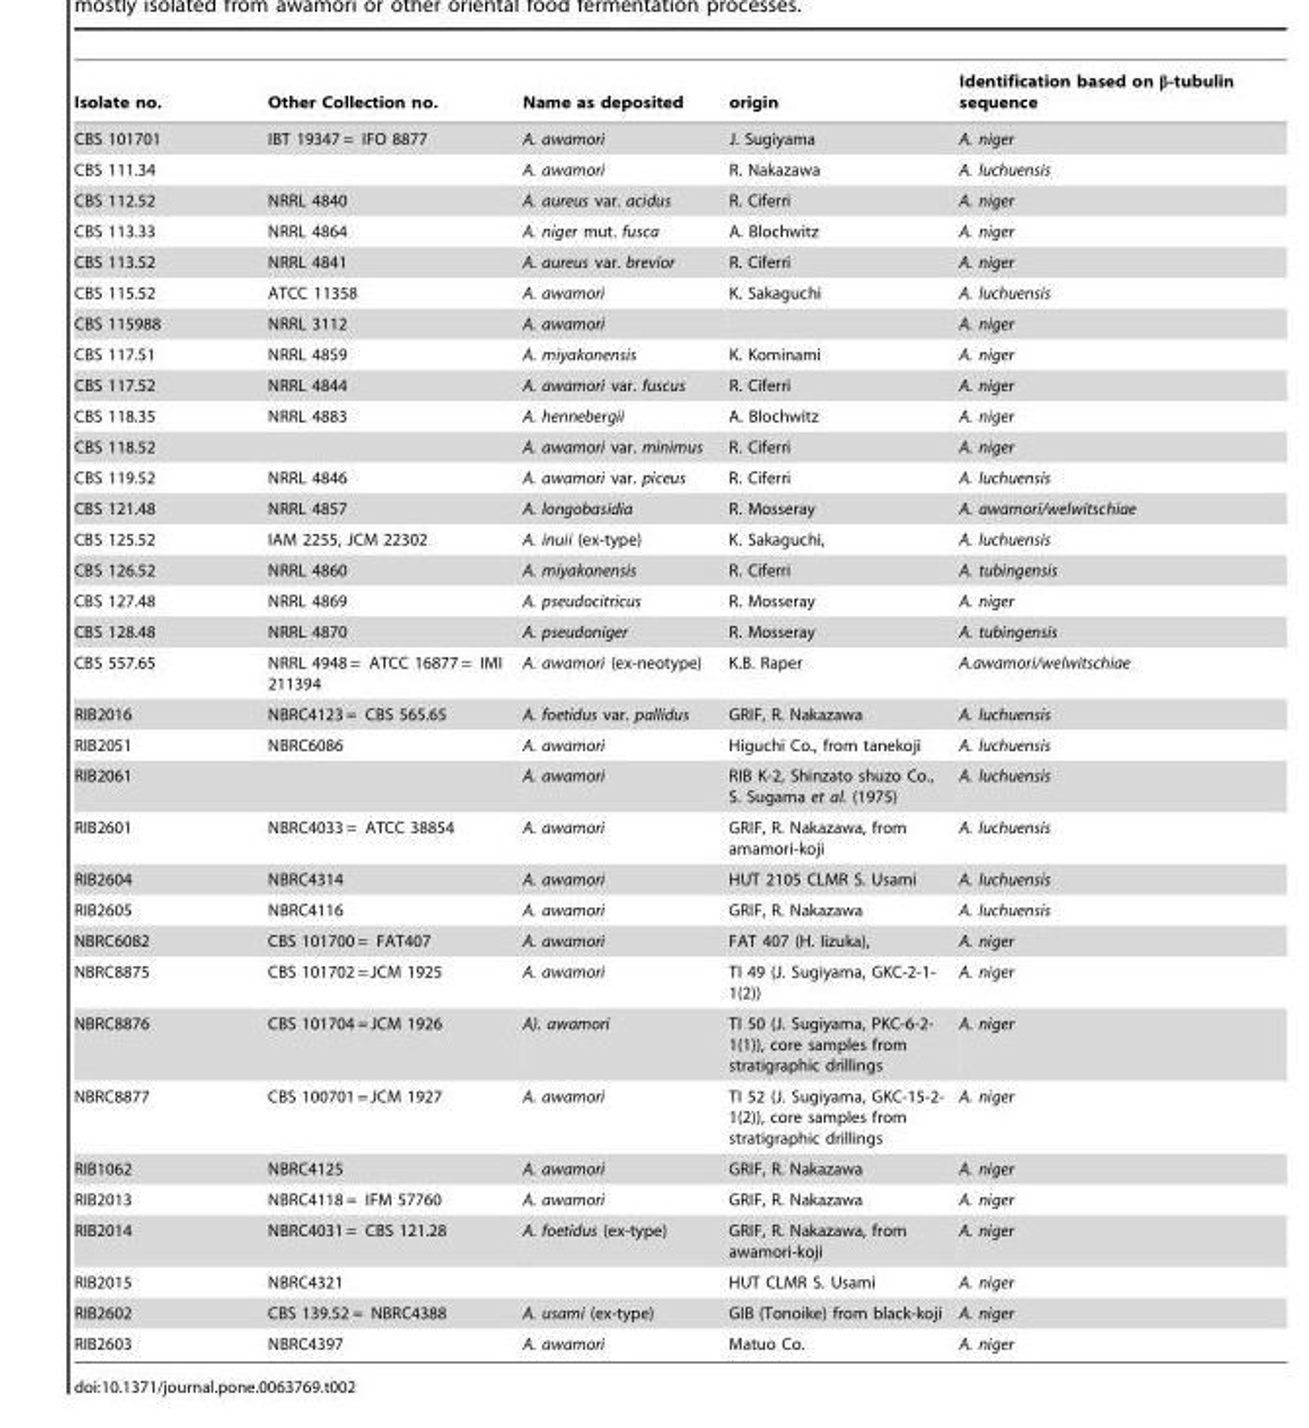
<table><thead><tr><td>Isolate no.</td><td>Other Collection no.</td><td>Name as deposited</td><td>origin</td><td>Identification based on β-tubulin sequence</td></tr></thead><tbody><tr><td>CBS 101701</td><td>IBT 19347 = IFO 8877</td><td>A. awamori</td><td>J. Sugiyama</td><td>A. niger</td></tr><tr><td>CBS 111.34</td><td></td><td>A. awamori</td><td>R. Nakazawa</td><td>A. luchuensis</td></tr><tr><td>CBS 112.52</td><td>NRRL 4840</td><td>A. aureus var. acidus</td><td>R. Ciferri</td><td>A. niger</td></tr><tr><td>CBS 113.33</td><td>NRRL 4864</td><td>A. niger mut. fusca</td><td>A. Blochwitz</td><td>A. niger</td></tr><tr><td>CBS 113.52</td><td>NRRL 4841</td><td>A. aureus var. brevior</td><td>R. Ciferri</td><td>A. niger</td></tr><tr><td>CBS 115.52</td><td>ATCC 11358</td><td>A. awamori</td><td>K. Sakaguchi</td><td>A. luchuensis</td></tr><tr><td>CBS 115988</td><td>NRRL 3112</td><td>A. awamori</td><td></td><td>A. niger</td></tr><tr><td>CBS 117.51</td><td>NRRL 4859</td><td>A. miyakonensis</td><td>K. Kominami</td><td>A. niger</td></tr><tr><td>CBS 117.52</td><td>NRRL 4844</td><td>A. awamori var. fuscus</td><td>R. Ciferri</td><td>A. niger</td></tr><tr><td>CBS 118.35</td><td>NRRL 4883</td><td>A. hennebergii</td><td>A. Blochwitz</td><td>A. niger</td></tr><tr><td>CBS 118.52</td><td></td><td>A. awamori var. minimus</td><td>R. Ciferri</td><td>A. niger</td></tr><tr><td>CBS 119.52</td><td>NRRL 4846</td><td>A. awamori var. piceus</td><td>R. Ciferri</td><td>A. luchuensis</td></tr><tr><td>CBS 121.48</td><td>NRRL 4857</td><td>A. longobasidia</td><td>R. Mosseray</td><td>A. awamori/welwitschiae</td></tr><tr><td>CBS 125.52</td><td>IAM 2255, JCM 22302</td><td>A. inuii (ex-type)</td><td>K. Sakaguchi,</td><td>A. luchuensis</td></tr><tr><td>CBS 126.52</td><td>NRRL 4860</td><td>A. miyakonensis</td><td>R. Ciferri</td><td>A. tubingensis</td></tr><tr><td>CBS 127.48</td><td>NRRL 4869</td><td>A. pseudocitricus</td><td>R. Mosseray</td><td>A. niger</td></tr><tr><td>CBS 128.48</td><td>NRRL 4870</td><td>A. pseudoniger</td><td>R. Mosseray</td><td>A. tubingensis</td></tr><tr><td>CBS 557.65</td><td>NRRL 4948 = ATCC 16877 = IMI 211394</td><td>A. awamori (ex-neotype)</td><td>K.B. Raper</td><td>A.awamori/welwitschiae</td></tr><tr><td>RIB2016</td><td>NBRC4123 = CBS 565.65</td><td>A. foetidus var. pallidus</td><td>GRIF, R. Nakazawa</td><td>A. luchuensis</td></tr><tr><td>RIB2051</td><td>NBRC6086</td><td>A. awamori</td><td>Higuchi Co., from tanekoji</td><td>A. luchuensis</td></tr><tr><td>RIB2061</td><td></td><td>A. awamori</td><td>RIB K-2, Shinzato shuzo Co., S. Sugama et al. (1975)</td><td>A. luchuensis</td></tr><tr><td>RIB2601</td><td>NBRC4033 = ATCC 38854</td><td>A. awamori</td><td>GRIF, R. Nakazawa, from amamori-koji</td><td>A. luchuensis</td></tr><tr><td>RIB2604</td><td>NBRC4314</td><td>A. awamori</td><td>HUT 2105 CLMR S. Usami</td><td>A. luchuensis</td></tr><tr><td>RIB2605</td><td>NBRC4116</td><td>A. awamori</td><td>GRIF, R. Nakazawa</td><td>A. luchuensis</td></tr><tr><td>NBRC6082</td><td>CBS 101700 = FAT407</td><td>A. awamori</td><td>FAT 407 (H. Iizuka),</td><td>A. niger</td></tr><tr><td>NBRC8875</td><td>CBS 101702 = JCM 1925</td><td>A. awamori</td><td>TI 49 (J. Sugiyama, GKC-2-1- 1(2))</td><td>A. niger</td></tr><tr><td>NBRC8876</td><td>CBS 101704 = JCM 1926</td><td>A). awamori</td><td>TI 50 (J. Sugiyama, PKC-6-2- 1(1)), core samples from stratigraphic drillings</td><td>A. niger</td></tr><tr><td>NBRC8877</td><td>CBS 100701 = JCM 1927</td><td>A. awamori</td><td>TI 52 (J. Sugiyama, GKC-15-2- 1(2)), core samples from stratigraphic drillings</td><td>A. niger</td></tr><tr><td>RIB1062</td><td>NBRC4125</td><td>A. awamori</td><td>GRIF, R. Nakazawa</td><td>A. niger</td></tr><tr><td>RIB2013</td><td>NBRC4118 = IFM 57760</td><td>A. awamori</td><td>GRIF, R. Nakazawa</td><td>A. niger</td></tr><tr><td>RIB2014</td><td>NBRC4031 = CBS 121.28</td><td>A. foetidus (ex-type)</td><td>GRIF, R. Nakazawa, from awamori-koji</td><td>A. niger</td></tr><tr><td>RIB2015</td><td>NBRC4321</td><td></td><td>HUT CLMR S. Usami</td><td>A. niger</td></tr><tr><td>RIB2602</td><td>CBS 139.52 = NBRC4388</td><td>A. usami (ex-type)</td><td>GIB (Tonoike) from black-koji</td><td>A. niger</td></tr><tr><td>RIB2603</td><td>NBRC4397</td><td>A. awamori</td><td>Matuo Co.</td><td>A. niger</td></tr></tbody></table>